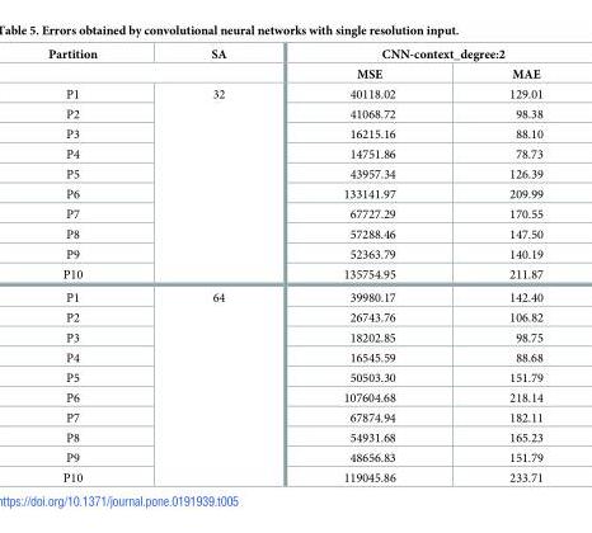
<table><thead><tr><td rowspan="2">Partition</td><td rowspan="2">SA</td><td colspan="2">CNN-context_degree:2</td></tr><tr><td>MSE</td><td>MAE</td></tr></thead><tbody><tr><td>P1</td><td rowspan="10">32</td><td>40118.02</td><td>129.01</td></tr><tr><td>P2</td><td>41068.72</td><td>98.38</td></tr><tr><td>P3</td><td>16215.16</td><td>88.10</td></tr><tr><td>P4</td><td>14751.86</td><td>78.73</td></tr><tr><td>P5</td><td>43957.34</td><td>126.39</td></tr><tr><td>P6</td><td>133141.97</td><td>209.99</td></tr><tr><td>P7</td><td>67727.29</td><td>170.55</td></tr><tr><td>P8</td><td>57288.46</td><td>147.50</td></tr><tr><td>P9</td><td>52363.79</td><td>140.19</td></tr><tr><td>P10</td><td>135754.95</td><td>211.87</td></tr><tr><td>P1</td><td rowspan="10">64</td><td>39980.17</td><td>142.40</td></tr><tr><td>P2</td><td>26743.76</td><td>106.82</td></tr><tr><td>P3</td><td>18202.85</td><td>98.75</td></tr><tr><td>P4</td><td>16545.59</td><td>88.68</td></tr><tr><td>P5</td><td>50503.30</td><td>151.79</td></tr><tr><td>P6</td><td>107604.68</td><td>218.14</td></tr><tr><td>P7</td><td>67874.94</td><td>182.11</td></tr><tr><td>P8</td><td>54931.68</td><td>165.23</td></tr><tr><td>P9</td><td>48656.83</td><td>151.79</td></tr><tr><td>P10</td><td>119045.86</td><td>233.71</td></tr></tbody></table>